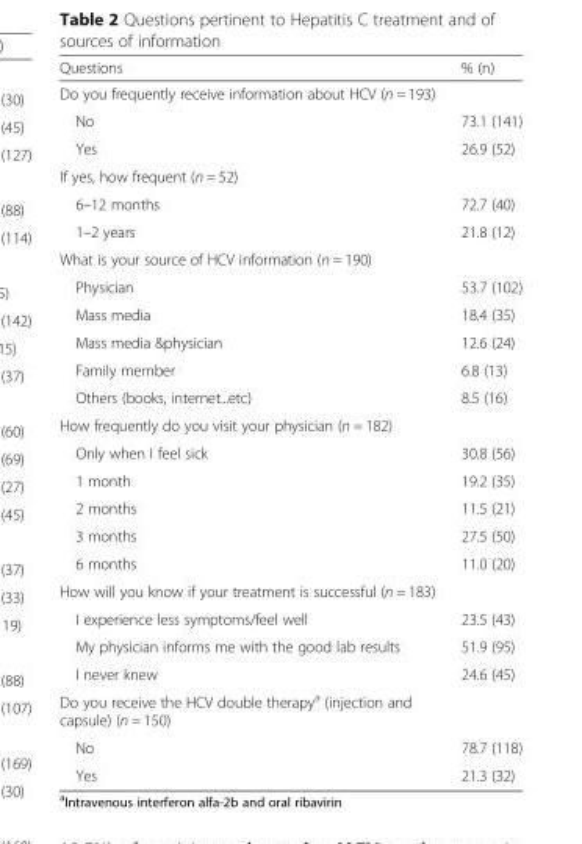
<table><thead><tr><td>Questions</td><td>% (n)</td></tr></thead><tbody><tr><td colspan="2">Do you frequently receive information about HCV (n = 193)</td></tr><tr><td>No</td><td>73.1 (141)</td></tr><tr><td>Yes</td><td>26.9 (52)</td></tr><tr><td colspan="2">If yes, how frequent (n = 52)</td></tr><tr><td>6–12 months</td><td>72.7 (40)</td></tr><tr><td>1–2 years</td><td>21.8 (12)</td></tr><tr><td colspan="2">What is your source of HCV information (n = 190)</td></tr><tr><td>Physician</td><td>53.7 (102)</td></tr><tr><td>Mass media</td><td>18.4 (35)</td></tr><tr><td>Mass media &amp;physician</td><td>12.6 (24)</td></tr><tr><td>Family member</td><td>6.8 (13)</td></tr><tr><td>Others (books, internet...etc)</td><td>8.5 (16)</td></tr><tr><td colspan="2">How frequently do you visit your physician (n = 182)</td></tr><tr><td>Only when I feel sick</td><td>30.8 (56)</td></tr><tr><td>1 month</td><td>19.2 (35)</td></tr><tr><td>2 months</td><td>11.5 (21)</td></tr><tr><td>3 months</td><td>27.5 (50)</td></tr><tr><td>6 months</td><td>11.0 (20)</td></tr><tr><td colspan="2">How will you know if your treatment is successful (n = 183)</td></tr><tr><td>I experience less symptoms/feel well</td><td>23.5 (43)</td></tr><tr><td>My physician informs me with the good lab results</td><td>51.9 (95)</td></tr><tr><td>I never knew</td><td>24.6 (45)</td></tr><tr><td colspan="2">Do you receive the HCV double therapy<sup>a</sup> (injection and capsule) (n = 150)</td></tr><tr><td>No</td><td>78.7 (118)</td></tr><tr><td>Yes</td><td>21.3 (32)</td></tr></tbody></table>